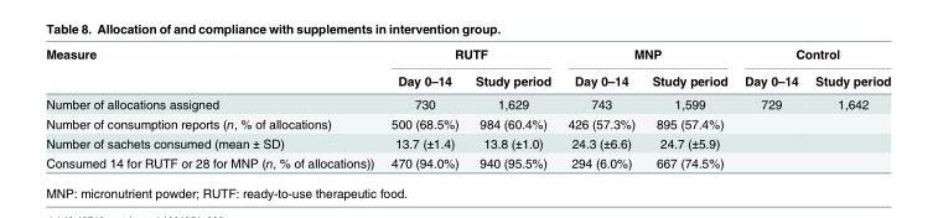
<table><thead><tr><td rowspan="2">Measure</td><td colspan="2">RUTF</td><td colspan="2">MNP</td><td colspan="2">Control</td></tr><tr><td>Day 0–14</td><td>Study period</td><td>Day 0–14</td><td>Study period</td><td>Day 0–14</td><td>Study period</td></tr></thead><tbody><tr><td>Number of allocations assigned</td><td>730</td><td>1,629</td><td>743</td><td>1,599</td><td>729</td><td>1,642</td></tr><tr><td>Number of consumption reports (n, % of allocations)</td><td>500 (68.5%)</td><td>984 (60.4%)</td><td>426 (57.3%)</td><td>895 (57.4%)</td><td></td><td></td></tr><tr><td>Number of sachets consumed (mean ± SD)</td><td>13.7 (±1.4)</td><td>13.8 (±1.0)</td><td>24.3 (±6.6)</td><td>24.7 (±5.9)</td><td></td><td></td></tr><tr><td>Consumed 14 for RUTF or 28 for MNP (n, % of allocations))</td><td>470 (94.0%)</td><td>940 (95.5%)</td><td>294 (6.0%)</td><td>667 (74.5%)</td><td></td><td></td></tr></tbody></table>